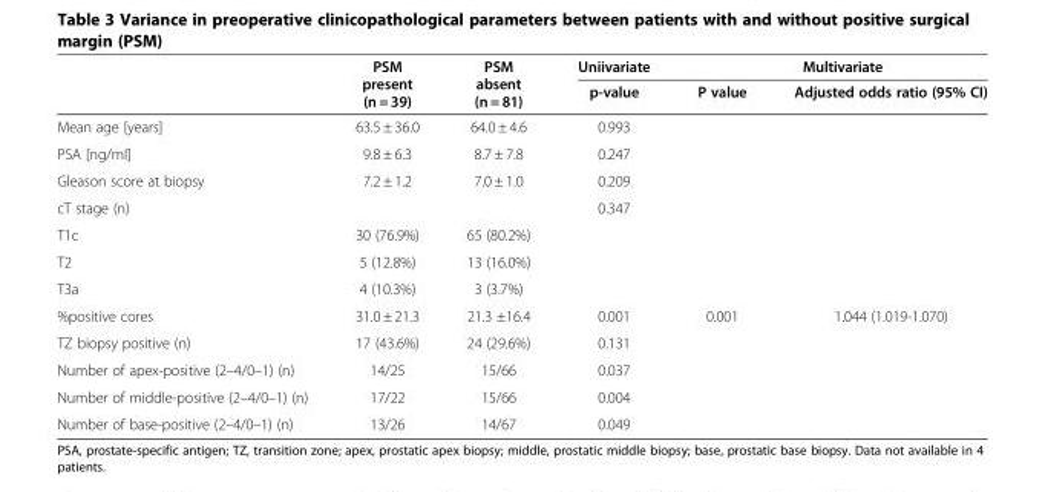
<table><thead><tr><td rowspan="2"></td><td rowspan="2">PSM present (n = 39)</td><td rowspan="2">PSM absent (n = 81)</td><td rowspan="2">Uniivariate p-value</td><td colspan="2">Multivariate</td></tr><tr><td>P value</td><td>Adjusted odds ratio (95% CI)</td></tr></thead><tbody><tr><td>Mean age [years]</td><td>63.5 ± 36.0</td><td>64.0 ± 4.6</td><td>0.993</td><td></td><td></td></tr><tr><td>PSA [ng/ml]</td><td>9.8 ± 6.3</td><td>8.7 ± 7.8</td><td>0.247</td><td></td><td></td></tr><tr><td>Gleason score at biopsy</td><td>7.2 ± 1.2</td><td>7.0 ± 1.0</td><td>0.209</td><td></td><td></td></tr><tr><td>cT stage (n)</td><td></td><td></td><td>0.347</td><td></td><td></td></tr><tr><td>T1c</td><td>30 (76.9%)</td><td>65 (80.2%)</td><td></td><td></td><td></td></tr><tr><td>T2</td><td>5 (12.8%)</td><td>13 (16.0%)</td><td></td><td></td><td></td></tr><tr><td>T3a</td><td>4 (10.3%)</td><td>3 (3.7%)</td><td></td><td></td><td></td></tr><tr><td>%positive cores</td><td>31.0 ± 21.3</td><td>21.3 ±16.4</td><td>0.001</td><td>0.001</td><td>1.044 (1.019-1.070)</td></tr><tr><td>TZ biopsy positive (n)</td><td>17 (43.6%)</td><td>24 (29.6%)</td><td>0.131</td><td></td><td></td></tr><tr><td>Number of apex-positive (2–4/0–1) (n)</td><td>14/25</td><td>15/66</td><td>0.037</td><td></td><td></td></tr><tr><td>Number of middle-positive (2–4/0–1) (n)</td><td>17/22</td><td>15/66</td><td>0.004</td><td></td><td></td></tr><tr><td>Number of base-positive (2–4/0–1) (n)</td><td>13/26</td><td>14/67</td><td>0.049</td><td></td><td></td></tr></tbody></table>